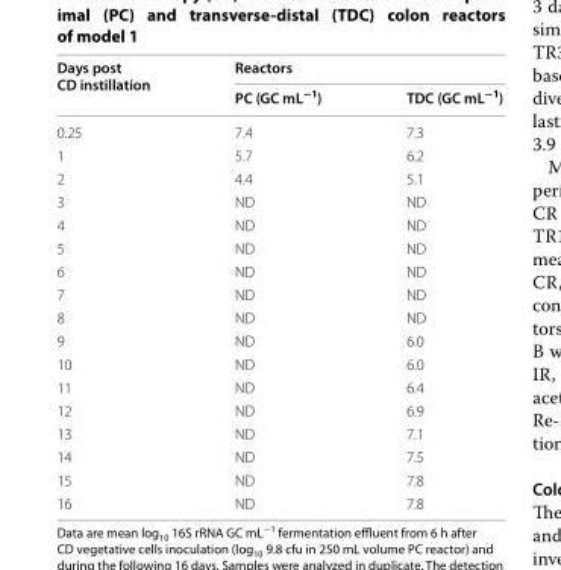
<table><thead><tr><td rowspan="2">Days post CD instillation</td><td colspan="2">Reactors</td></tr><tr><td>PC (GC mL<sup>−1</sup>)</td><td>TDC (GC mL<sup>−1</sup>)</td></tr></thead><tbody><tr><td>0.25</td><td>7.4</td><td>7.3</td></tr><tr><td>1</td><td>5.7</td><td>6.2</td></tr><tr><td>2</td><td>4.4</td><td>5.1</td></tr><tr><td>3</td><td>ND</td><td>ND</td></tr><tr><td>4</td><td>ND</td><td>ND</td></tr><tr><td>5</td><td>ND</td><td>ND</td></tr><tr><td>6</td><td>ND</td><td>ND</td></tr><tr><td>7</td><td>ND</td><td>ND</td></tr><tr><td>8</td><td>ND</td><td>ND</td></tr><tr><td>9</td><td>ND</td><td>6.0</td></tr><tr><td>10</td><td>ND</td><td>6.0</td></tr><tr><td>11</td><td>ND</td><td>6.4</td></tr><tr><td>12</td><td>ND</td><td>6.9</td></tr><tr><td>13</td><td>ND</td><td>7.1</td></tr><tr><td>14</td><td>ND</td><td>7.5</td></tr><tr><td>15</td><td>ND</td><td>7.8</td></tr><tr><td>16</td><td>ND</td><td>7.8</td></tr></tbody></table>